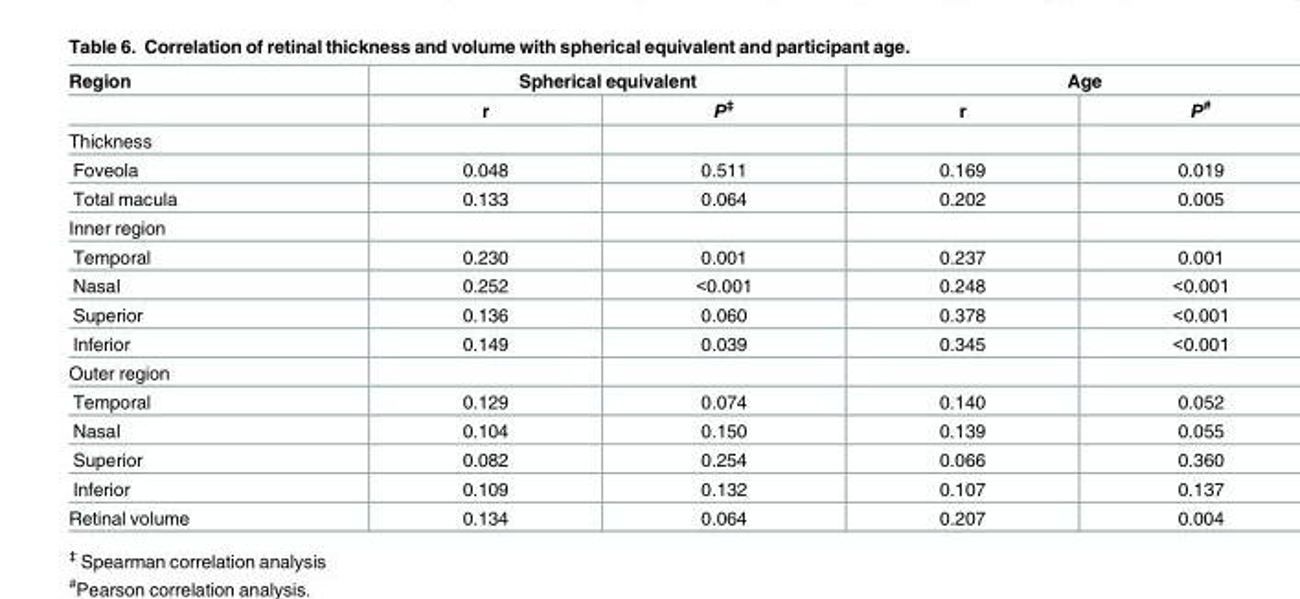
<table><thead><tr><td rowspan="2">Region</td><td colspan="2">Spherical equivalent</td><td colspan="2">Age</td></tr><tr><td>r</td><td>P<sup>‡</sup></td><td>r</td><td>P<sup>#</sup></td></tr></thead><tbody><tr><td colspan="5">Thickness</td></tr><tr><td>Foveola</td><td>0.048</td><td>0.511</td><td>0.169</td><td>0.019</td></tr><tr><td>Total macula</td><td>0.133</td><td>0.064</td><td>0.202</td><td>0.005</td></tr><tr><td colspan="5">Inner region</td></tr><tr><td>Temporal</td><td>0.230</td><td>0.001</td><td>0.237</td><td>0.001</td></tr><tr><td>Nasal</td><td>0.252</td><td>&lt;0.001</td><td>0.248</td><td>&lt;0.001</td></tr><tr><td>Superior</td><td>0.136</td><td>0.060</td><td>0.378</td><td>&lt;0.001</td></tr><tr><td>Inferior</td><td>0.149</td><td>0.039</td><td>0.345</td><td>&lt;0.001</td></tr><tr><td colspan="5">Outer region</td></tr><tr><td>Temporal</td><td>0.129</td><td>0.074</td><td>0.140</td><td>0.052</td></tr><tr><td>Nasal</td><td>0.104</td><td>0.150</td><td>0.139</td><td>0.055</td></tr><tr><td>Superior</td><td>0.082</td><td>0.254</td><td>0.066</td><td>0.360</td></tr><tr><td>Inferior</td><td>0.109</td><td>0.132</td><td>0.107</td><td>0.137</td></tr><tr><td>Retinal volume</td><td>0.134</td><td>0.064</td><td>0.207</td><td>0.004</td></tr></tbody></table>